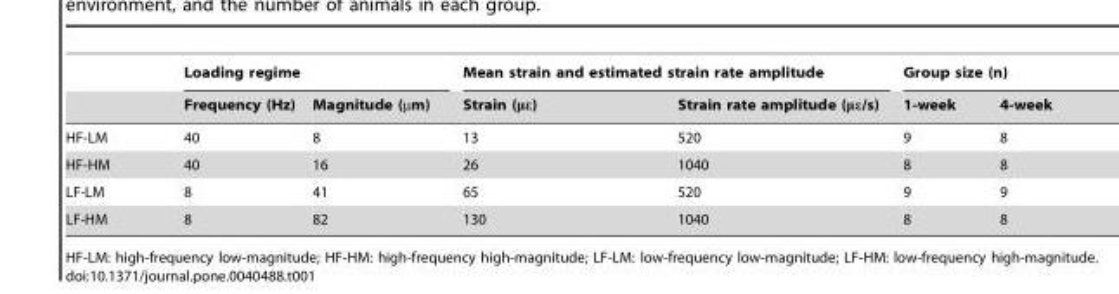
<table><thead><tr><td rowspan="2"></td><td colspan="2">Loading regime</td><td colspan="2">Mean strain and estimated strain rate amplitude</td><td colspan="2">Group size (n)</td></tr><tr><td>Frequency (Hz)</td><td>Magnitude (µm)</td><td>Strain (με)</td><td>Strain rate amplitude (με/s)</td><td>1-week</td><td>4-week</td></tr></thead><tbody><tr><td>HF-LM</td><td>40</td><td>8</td><td>13</td><td>520</td><td>9</td><td>8</td></tr><tr><td>HF-HM</td><td>40</td><td>16</td><td>26</td><td>1040</td><td>8</td><td>8</td></tr><tr><td>LF-LM</td><td>8</td><td>41</td><td>65</td><td>520</td><td>9</td><td>9</td></tr><tr><td>LF-HM</td><td>8</td><td>82</td><td>130</td><td>1040</td><td>8</td><td>8</td></tr></tbody></table>